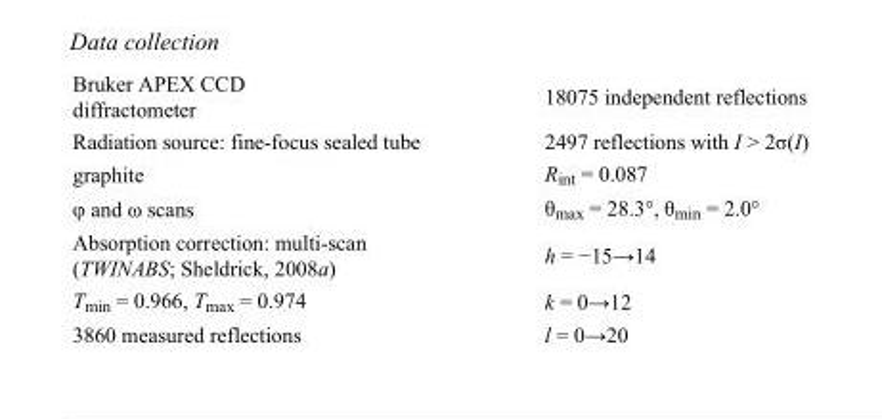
<table><tbody><tr><td>Bruker APEX CCD diffractometer</td><td>18075 independent reflections</td></tr><tr><td>Radiation source: fine-focus sealed tube</td><td>2497 reflections with I &gt; 2σ(I)</td></tr><tr><td>graphite</td><td>R<sub>int</sub> = 0.087</td></tr><tr><td>φ and ω scans</td><td>θ<sub>max</sub> = 28.3°, θ<sub>min</sub> = 2.0°</td></tr><tr><td>Absorption correction: multi-scan (TWINABS; Sheldrick, 2008a)</td><td>h = −15→14</td></tr><tr><td>T<sub>min</sub> = 0.966, T<sub>max</sub> = 0.974</td><td>k = 0→12</td></tr><tr><td>3860 measured reflections</td><td>l = 0→20</td></tr></tbody></table>